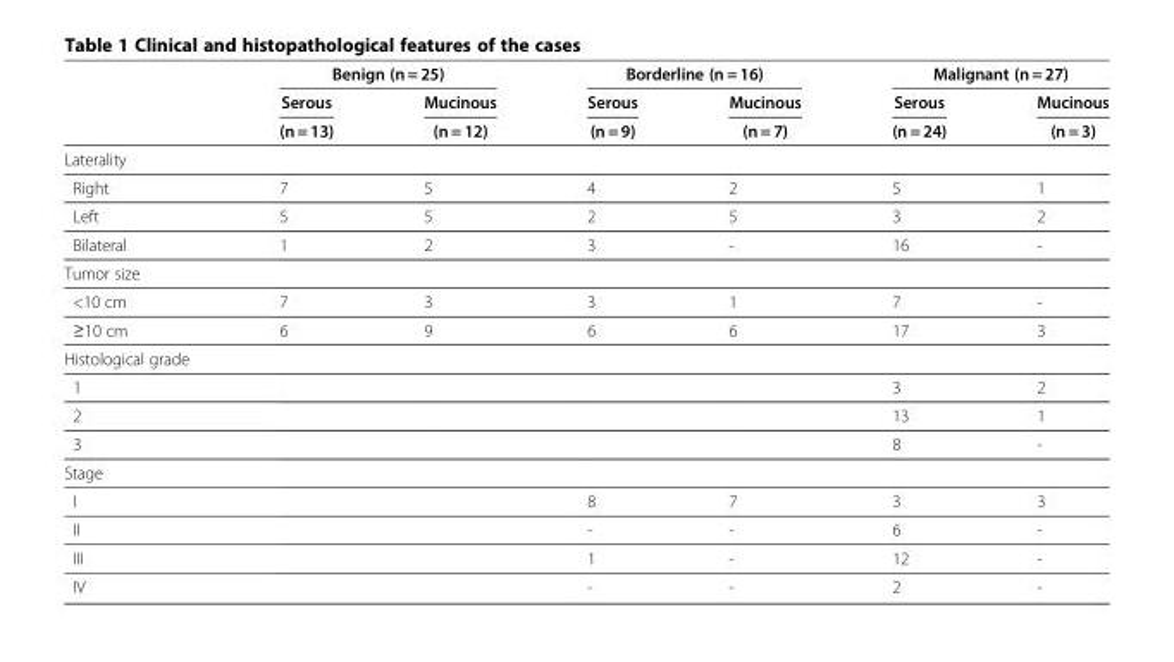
<table><thead><tr><td rowspan="3"></td><td colspan="2">Benign (n = 25)</td><td colspan="2">Borderline (n = 16)</td><td colspan="2">Malignant (n = 27)</td></tr><tr><td rowspan="2">Serous (n = 13)</td><td rowspan="2">Mucinous (n = 12)</td><td rowspan="2">Serous (n = 9)</td><td rowspan="2">Mucinous (n = 7)</td><td rowspan="2">Serous (n = 24)</td><td rowspan="2">Mucinous (n = 3)</td></tr><tr></tr></thead><tbody><tr><td colspan="7">Laterality</td></tr><tr><td>Right</td><td>7</td><td>5</td><td>4</td><td>2</td><td>5</td><td>1</td></tr><tr><td>Left</td><td>5</td><td>5</td><td>2</td><td>5</td><td>3</td><td>2</td></tr><tr><td>Bilateral</td><td>1</td><td>2</td><td>3</td><td>-</td><td>16</td><td>-</td></tr><tr><td colspan="7">Tumor size</td></tr><tr><td>&lt;10 cm</td><td>7</td><td>3</td><td>3</td><td>1</td><td>7</td><td>-</td></tr><tr><td>≥10 cm</td><td>6</td><td>9</td><td>6</td><td>6</td><td>17</td><td>3</td></tr><tr><td colspan="7">Histological grade</td></tr><tr><td>1</td><td></td><td></td><td></td><td></td><td>3</td><td>2</td></tr><tr><td>2</td><td></td><td></td><td></td><td></td><td>13</td><td>1</td></tr><tr><td>3</td><td></td><td></td><td></td><td></td><td>8</td><td>-</td></tr><tr><td colspan="7">Stage</td></tr><tr><td>I</td><td></td><td></td><td>8</td><td>7</td><td>3</td><td>3</td></tr><tr><td>II</td><td></td><td></td><td>-</td><td>-</td><td>6</td><td>-</td></tr><tr><td>III</td><td></td><td></td><td>1</td><td>-</td><td>12</td><td>-</td></tr><tr><td>IV</td><td></td><td></td><td>-</td><td>-</td><td>2</td><td>-</td></tr></tbody></table>